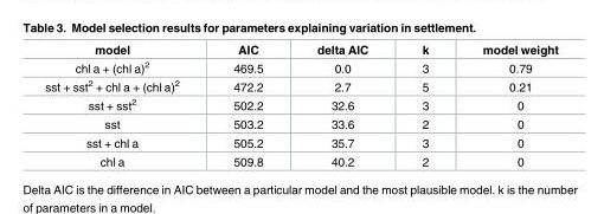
<table><thead><tr><td>model</td><td>AIC</td><td>delta AIC</td><td>k</td><td>model weight</td></tr></thead><tbody><tr><td>chl a + (chl a)<sup>2</sup></td><td>469.5</td><td>0.0</td><td>3</td><td>0.79</td></tr><tr><td>sst + sst<sup>2</sup> + chl a + (chl a)<sup>2</sup></td><td>472.2</td><td>2.7</td><td>5</td><td>0.21</td></tr><tr><td>sst + sst<sup>2</sup></td><td>502.2</td><td>32.6</td><td>3</td><td>0</td></tr><tr><td>sst</td><td>503.2</td><td>33.6</td><td>2</td><td>0</td></tr><tr><td>sst + chl a</td><td>505.2</td><td>35.7</td><td>3</td><td>0</td></tr><tr><td>chl a</td><td>509.8</td><td>40.2</td><td>2</td><td>0</td></tr></tbody></table>